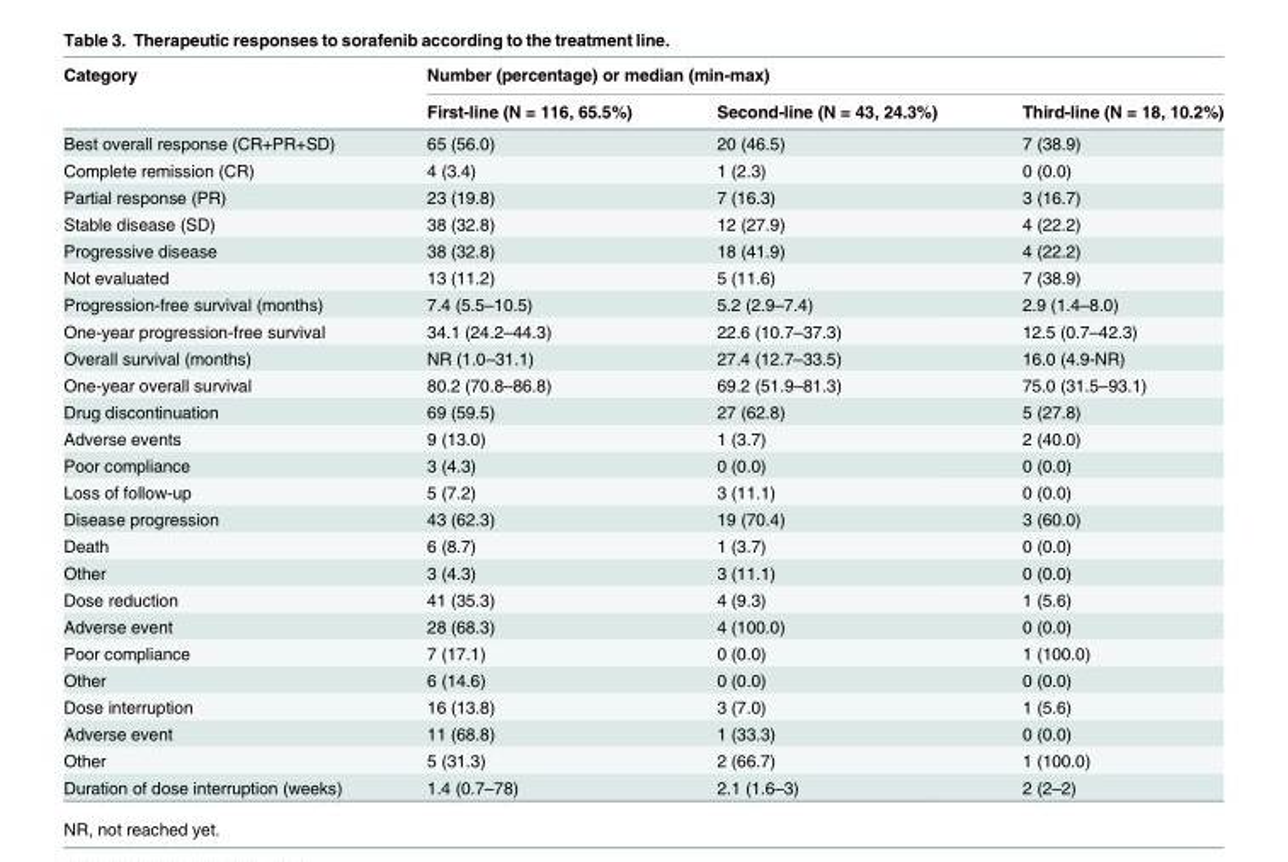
<table><thead><tr><td rowspan="2">Category</td><td colspan="3">Number (percentage) or median (min-max)</td></tr><tr><td>First-line (N = 116, 65.5%)</td><td>Second-line (N = 43, 24.3%)</td><td>Third-line (N = 18, 10.2%)</td></tr></thead><tbody><tr><td>Best overall response (CR+PR+SD)</td><td>65 (56.0)</td><td>20 (46.5)</td><td>7 (38.9)</td></tr><tr><td>Complete remission (CR)</td><td>4 (3.4)</td><td>1 (2.3)</td><td>0 (0.0)</td></tr><tr><td>Partial response (PR)</td><td>23 (19.8)</td><td>7 (16.3)</td><td>3 (16.7)</td></tr><tr><td>Stable disease (SD)</td><td>38 (32.8)</td><td>12 (27.9)</td><td>4 (22.2)</td></tr><tr><td>Progressive disease</td><td>38 (32.8)</td><td>18 (41.9)</td><td>4 (22.2)</td></tr><tr><td>Not evaluated</td><td>13 (11.2)</td><td>5 (11.6)</td><td>7 (38.9)</td></tr><tr><td>Progression-free survival (months)</td><td>7.4 (5.5–10.5)</td><td>5.2 (2.9–7.4)</td><td>2.9 (1.4–8.0)</td></tr><tr><td>One-year progression-free survival</td><td>34.1 (24.2–44.3)</td><td>22.6 (10.7–37.3)</td><td>12.5 (0.7–42.3)</td></tr><tr><td>Overall survival (months)</td><td>NR (1.0–31.1)</td><td>27.4 (12.7–33.5)</td><td>16.0 (4.9-NR)</td></tr><tr><td>One-year overall survival</td><td>80.2 (70.8–86.8)</td><td>69.2 (51.9–81.3)</td><td>75.0 (31.5–93.1)</td></tr><tr><td>Drug discontinuation</td><td>69 (59.5)</td><td>27 (62.8)</td><td>5 (27.8)</td></tr><tr><td>Adverse events</td><td>9 (13.0)</td><td>1 (3.7)</td><td>2 (40.0)</td></tr><tr><td>Poor compliance</td><td>3 (4.3)</td><td>0 (0.0)</td><td>0 (0.0)</td></tr><tr><td>Loss of follow-up</td><td>5 (7.2)</td><td>3 (11.1)</td><td>0 (0.0)</td></tr><tr><td>Disease progression</td><td>43 (62.3)</td><td>19 (70.4)</td><td>3 (60.0)</td></tr><tr><td>Death</td><td>6 (8.7)</td><td>1 (3.7)</td><td>0 (0.0)</td></tr><tr><td>Other</td><td>3 (4.3)</td><td>3 (11.1)</td><td>0 (0.0)</td></tr><tr><td>Dose reduction</td><td>41 (35.3)</td><td>4 (9.3)</td><td>1 (5.6)</td></tr><tr><td>Adverse event</td><td>28 (68.3)</td><td>4 (100.0)</td><td>0 (0.0)</td></tr><tr><td>Poor compliance</td><td>7 (17.1)</td><td>0 (0.0)</td><td>1 (100.0)</td></tr><tr><td>Other</td><td>6 (14.6)</td><td>0 (0.0)</td><td>0 (0.0)</td></tr><tr><td>Dose interruption</td><td>16 (13.8)</td><td>3 (7.0)</td><td>1 (5.6)</td></tr><tr><td>Adverse event</td><td>11 (68.8)</td><td>1 (33.3)</td><td>0 (0.0)</td></tr><tr><td>Other</td><td>5 (31.3)</td><td>2 (66.7)</td><td>1 (100.0)</td></tr><tr><td>Duration of dose interruption (weeks)</td><td>1.4 (0.7–78)</td><td>2.1 (1.6–3)</td><td>2 (2–2)</td></tr></tbody></table>